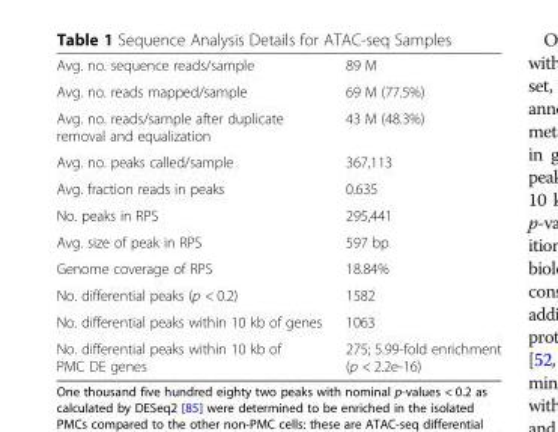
<table><tbody><tr><td>Avg. no. sequence reads/sample</td><td>89 M</td></tr><tr><td>Avg. no. reads mapped/sample</td><td>69 M (77.5%)</td></tr><tr><td>Avg. no. reads/sample after duplicate removal and equalization</td><td>43 M (48.3%)</td></tr><tr><td>Avg. no. peaks called/sample</td><td>367,113</td></tr><tr><td>Avg. fraction reads in peaks</td><td>0.635</td></tr><tr><td>No. peaks in RPS</td><td>295,441</td></tr><tr><td>Avg. size of peak in RPS</td><td>597 bp</td></tr><tr><td>Genome coverage of RPS</td><td>18.84%</td></tr><tr><td>No. differential peaks (p &lt; 0.2)</td><td>1582</td></tr><tr><td>No. differential peaks within 10 kb of genes</td><td>1063</td></tr><tr><td>No. differential peaks within 10 kb of PMC DE genes</td><td>275; 5.99-fold enrichment (p &lt; 2.2e-16)</td></tr></tbody></table>